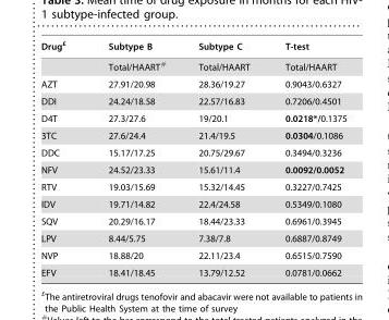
<table><thead><tr><td>Drug£</td><td>Subtype B</td><td>Subtype C</td><td>T-test</td></tr></thead><tbody><tr><td></td><td>Total/HAART#</td><td>Total/HAART</td><td>Total/HAART</td></tr><tr><td>AZT</td><td>27.91/20.98</td><td>28.36/19.27</td><td>0.9043/0.6327</td></tr><tr><td>DDI</td><td>24.24/18.58</td><td>22.57/16.83</td><td>0.7206/0.4501</td></tr><tr><td>D4T</td><td>27.3/27.6</td><td>19/20.1</td><td>0.0218*/0.1375</td></tr><tr><td>3TC</td><td>27.6/24.4</td><td>21.4/19.5</td><td>0.0304/0.1086</td></tr><tr><td>DDC</td><td>15.17/17.25</td><td>20.75/29.67</td><td>0.3494/0.3236</td></tr><tr><td>NFV</td><td>24.52/23.33</td><td>15.61/11.4</td><td>0.0092/0.0052</td></tr><tr><td>RTV</td><td>19.03/15.69</td><td>15.32/14.45</td><td>0.3227/0.7425</td></tr><tr><td>IDV</td><td>19.71/14.82</td><td>22.4/24.58</td><td>0.5349/0.1080</td></tr><tr><td>SQV</td><td>20.29/16.17</td><td>18.44/23.33</td><td>0.6961/0.3945</td></tr><tr><td>LPV</td><td>8.44/5.75</td><td>7.38/7.8</td><td>0.6887/0.8749</td></tr><tr><td>NVP</td><td>18.88/20</td><td>22.11/23.4</td><td>0.6515/0.7590</td></tr><tr><td>EFV</td><td>18.41/18.45</td><td>13.79/12.52</td><td>0.0781/0.0662</td></tr></tbody></table>